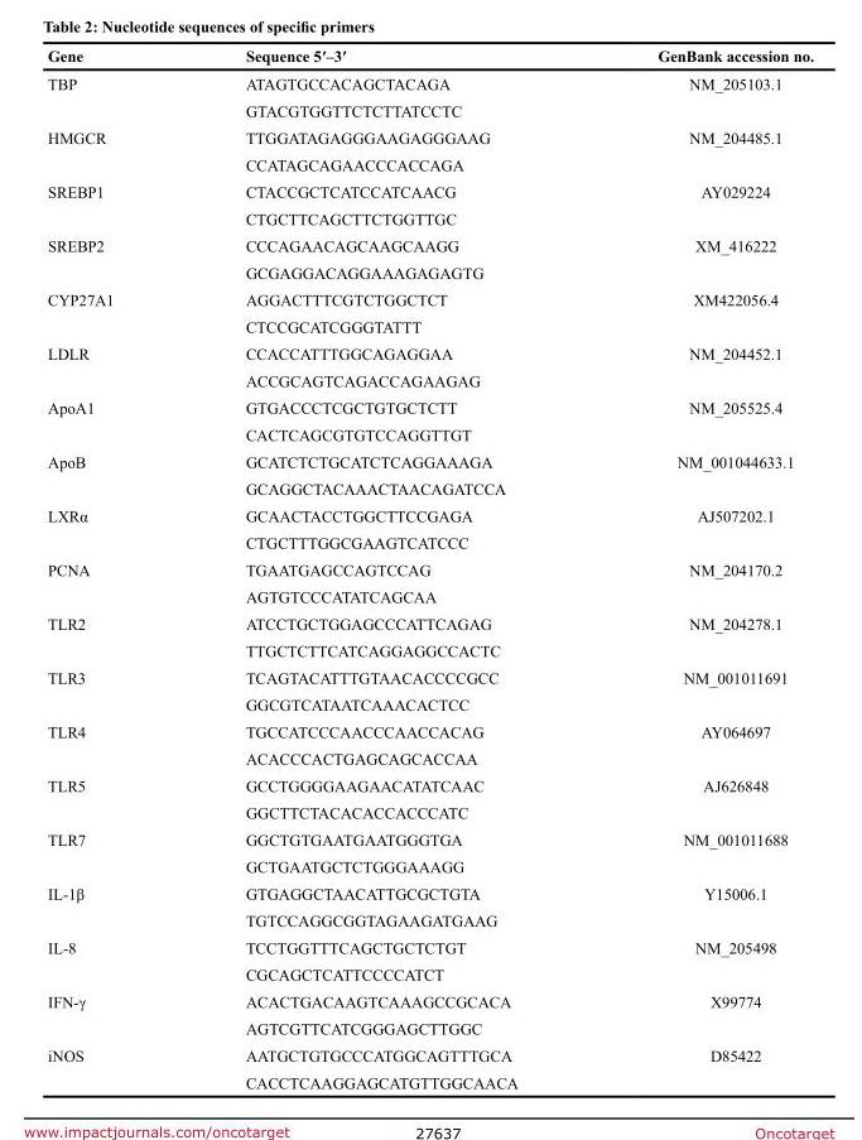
<table><thead><tr><td>Gene</td><td>Sequence 5′–3′</td><td>GenBank accession no.</td></tr></thead><tbody><tr><td rowspan="2">TBP</td><td>ATAGTGCCACAGCTACAGA</td><td>NM_205103.1</td></tr><tr><td>GTACGTGGTTCTCTTATCCTC</td><td></td></tr><tr><td rowspan="2">HMGCR</td><td>TTGGATAGAGGGAAGAGGGAAG</td><td>NM_204485.1</td></tr><tr><td>CCATAGCAGAACCCACCAGA</td><td></td></tr><tr><td rowspan="2">SREBP1</td><td>CTACCGCTCATCCATCAACG</td><td>AY029224</td></tr><tr><td>CTGCTTCAGCTTCTGGTTGC</td><td></td></tr><tr><td rowspan="2">SREBP2</td><td>CCCAGAACAGCAAGCAAGG</td><td>XM_416222</td></tr><tr><td>GCGAGGACAGGAAAGAGAGTG</td><td></td></tr><tr><td rowspan="2">CYP27A1</td><td>AGGACTTTCGTCTGGCTCT</td><td>XM422056.4</td></tr><tr><td>CTCCGCATCGGGTATTT</td><td></td></tr><tr><td rowspan="2">LDLR</td><td>CCACCATTTGGCAGAGGAA</td><td>NM_204452.1</td></tr><tr><td>ACCGCAGTCAGACCAGAAGAG</td><td></td></tr><tr><td rowspan="2">ApoA1</td><td>GTGACCCTCGCTGTGCTCTT</td><td>NM_205525.4</td></tr><tr><td>CACTCAGCGTGTCCAGGTTGT</td><td></td></tr><tr><td rowspan="2">ApoB</td><td>GCATCTCTGCATCTCAGGAAAGA</td><td>NM_001044633.1</td></tr><tr><td>GCAGGCTACAAACTAACAGATCCA</td><td></td></tr><tr><td rowspan="2">LXRα</td><td>GCAACTACCTGGCTTCCGAGA</td><td>AJ507202.1</td></tr><tr><td>CTGCTTTGGCGAAGTCATCCC</td><td></td></tr><tr><td rowspan="2">PCNA</td><td>TGAATGAGCCAGTCCAG</td><td>NM_204170.2</td></tr><tr><td>AGTGTCCCATATCAGCAA</td><td></td></tr><tr><td rowspan="2">TLR2</td><td>ATCCTGCTGGAGCCCATTCAGAG</td><td>NM_204278.1</td></tr><tr><td>TTGCTCTTCATCAGGAGGCCACTC</td><td></td></tr><tr><td rowspan="2">TLR3</td><td>TCAGTACATTTGTAACACCCCGCC</td><td>NM_001011691</td></tr><tr><td>GGCGTCATAATCAAACACTCC</td><td></td></tr><tr><td rowspan="2">TLR4</td><td>TGCCATCCCAACCCAACCACAG</td><td>AY064697</td></tr><tr><td>ACACCCACTGAGCAGCACCAA</td><td></td></tr><tr><td rowspan="2">TLR5</td><td>GCCTGGGGAAGAACATATCAAC</td><td>AJ626848</td></tr><tr><td>GGCTTCTACACACCACCCATC</td><td></td></tr><tr><td rowspan="2">TLR7</td><td>GGCTGTGAATGAATGGGTGA</td><td>NM_001011688</td></tr><tr><td>GCTGAATGCTCTGGGAAAGG</td><td></td></tr><tr><td rowspan="2">IL-1β</td><td>GTGAGGCTAACATTGCGCTGTA</td><td>Y15006.1</td></tr><tr><td>TGTCCAGGCGGTAGAAGATGAAG</td><td></td></tr><tr><td rowspan="2">IL-8</td><td>TCCTGGTTTCAGCTGCTCTGT</td><td>NM_205498</td></tr><tr><td>CGCAGCTCATTCCCCATCT</td><td></td></tr><tr><td rowspan="2">IFN-γ</td><td>ACACTGACAAGTCAAAGCCGCACA</td><td>X99774</td></tr><tr><td>AGTCGTTCATCGGGAGCTTGGC</td><td></td></tr><tr><td rowspan="2">iNOS</td><td>AATGCTGTGCCCATGGCAGTTTGCA</td><td>D85422</td></tr><tr><td>CACCTCAAGGAGCATGTTGGCAACA</td><td></td></tr></tbody></table>